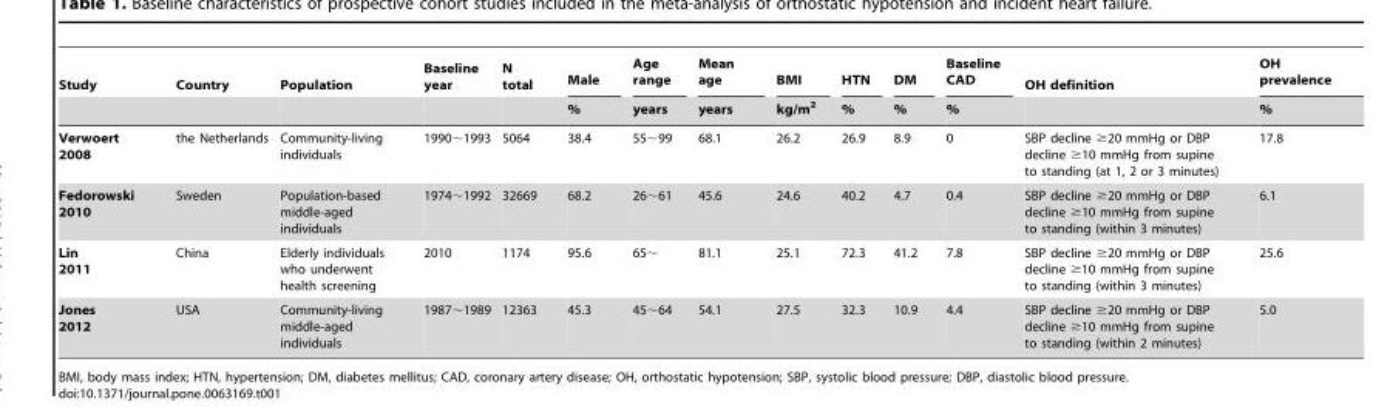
<table><thead><tr><td rowspan="2">Study</td><td rowspan="2">Country</td><td rowspan="2">Population</td><td rowspan="2">Baseline year</td><td rowspan="2">N total</td><td rowspan="2">Male %</td><td rowspan="2">Age range years</td><td rowspan="2">Mean age years</td><td rowspan="2">BMI kg/m<sup>2</sup></td><td rowspan="2">HTN %</td><td rowspan="2">DM %</td><td rowspan="2">Baseline CAD %</td><td rowspan="2">OH definition</td><td rowspan="2">OH prevalence %</td></tr><tr></tr></thead><tbody><tr><td>Verwoert 2008</td><td>the Netherlands</td><td>Community-living individuals</td><td>1990∼1993</td><td>5064</td><td>38.4</td><td>55∼99</td><td>68.1</td><td>26.2</td><td>26.9</td><td>8.9</td><td>0</td><td>SBP decline ≥20 mmHg or DBP decline ≥10 mmHg from supine to standing (at 1, 2 or 3 minutes)</td><td>17.8</td></tr><tr><td>Fedorowski 2010</td><td>Sweden</td><td>Population-based middle-aged individuals</td><td>1974∼1992</td><td>32669</td><td>68.2</td><td>26∼61</td><td>45.6</td><td>24.6</td><td>40.2</td><td>4.7</td><td>0.4</td><td>SBP decline ≥20 mmHg or DBP decline ≥10 mmHg from supine to standing (within 3 minutes)</td><td>6.1</td></tr><tr><td>Lin 2011</td><td>China</td><td>Elderly individuals who underwent health screening</td><td>2010</td><td>1174</td><td>95.6</td><td>65∼</td><td>81.1</td><td>25.1</td><td>72.3</td><td>41.2</td><td>7.8</td><td>SBP decline ≥20 mmHg or DBP decline ≥10 mmHg from supine to standing (within 3 minutes)</td><td>25.6</td></tr><tr><td>Jones 2012</td><td>USA</td><td>Community-living middle-aged individuals</td><td>1987∼1989</td><td>12363</td><td>45.3</td><td>45∼64</td><td>54.1</td><td>27.5</td><td>32.3</td><td>10.9</td><td>4.4</td><td>SBP decline ≥20 mmHg or DBP decline ≥10 mmHg from supine to standing (within 2 minutes)</td><td>5.0</td></tr></tbody></table>